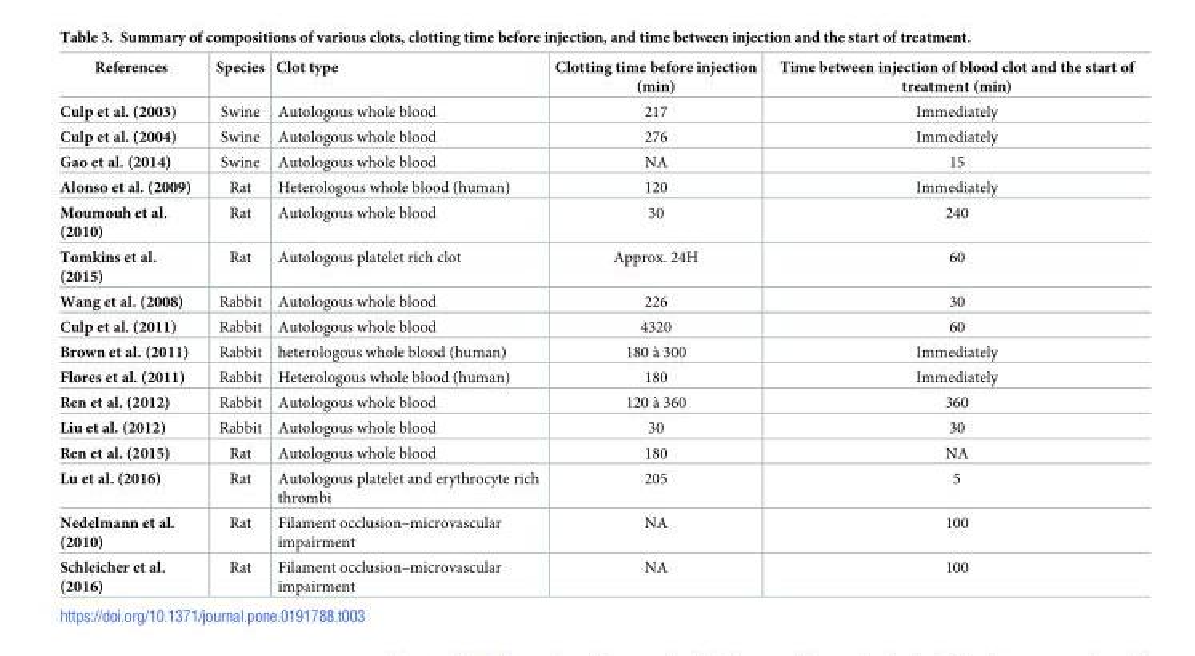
<table><thead><tr><td>References</td><td>Species</td><td>Clot type</td><td>Clotting time before injection (min)</td><td>Time between injection of blood clot and the start of treatment (min)</td></tr></thead><tbody><tr><td>Culp et al. (2003)</td><td>Swine</td><td>Autologous whole blood</td><td>217</td><td>Immediately</td></tr><tr><td>Culp et al. (2004)</td><td>Swine</td><td>Autologous whole blood</td><td>276</td><td>Immediately</td></tr><tr><td>Gao et al. (2014)</td><td>Swine</td><td>Autologous whole blood</td><td>NA</td><td>15</td></tr><tr><td>Alonso et al. (2009)</td><td>Rat</td><td>Heterologous whole blood (human)</td><td>120</td><td>Immediately</td></tr><tr><td>Moumouh et al. (2010)</td><td>Rat</td><td>Autologous whole blood</td><td>30</td><td>240</td></tr><tr><td>Tomkins et al. (2015)</td><td>Rat</td><td>Autologous platelet rich clot</td><td>Approx. 24H</td><td>60</td></tr><tr><td>Wang et al. (2008)</td><td>Rabbit</td><td>Autologous whole blood</td><td>226</td><td>30</td></tr><tr><td>Culp et al. (2011)</td><td>Rabbit</td><td>Autologous whole blood</td><td>4320</td><td>60</td></tr><tr><td>Brown et al. (2011)</td><td>Rabbit</td><td>heterologous whole blood (human)</td><td>180 à 300</td><td>Immediately</td></tr><tr><td>Flores et al. (2011)</td><td>Rabbit</td><td>Heterologous whole blood (human)</td><td>180</td><td>Immediately</td></tr><tr><td>Ren et al. (2012)</td><td>Rabbit</td><td>Autologous whole blood</td><td>120 à 360</td><td>360</td></tr><tr><td>Liu et al. (2012)</td><td>Rabbit</td><td>Autologous whole blood</td><td>30</td><td>30</td></tr><tr><td>Ren et al. (2015)</td><td>Rat</td><td>Autologous whole blood</td><td>180</td><td>NA</td></tr><tr><td>Lu et al. (2016)</td><td>Rat</td><td>Autologous platelet and erythrocyte rich thrombi</td><td>205</td><td>5</td></tr><tr><td>Nedelmann et al. (2010)</td><td>Rat</td><td>Filament occlusion–microvascular impairment</td><td>NA</td><td>100</td></tr><tr><td>Schleicher et al. (2016)</td><td>Rat</td><td>Filament occlusion–microvascular impairment</td><td>NA</td><td>100</td></tr></tbody></table>